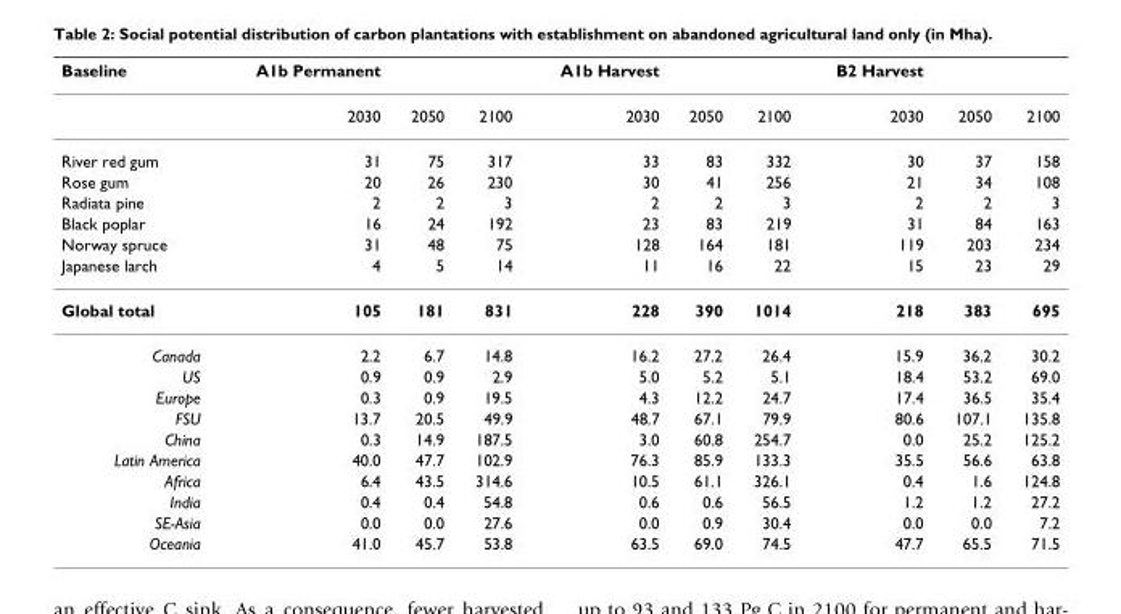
<table><thead><tr><td>Baseline</td><td>A1b Permanent</td><td></td><td></td><td>A1b Harvest</td><td></td><td></td><td>B2 Harvest</td><td></td><td></td></tr></thead><tbody><tr><td></td><td>2030</td><td>2050</td><td>2100</td><td>2030</td><td>2050</td><td>2100</td><td>2030</td><td>2050</td><td>2100</td></tr><tr><td>River red gum</td><td>31</td><td>75</td><td>317</td><td>33</td><td>83</td><td>332</td><td>30</td><td>37</td><td>158</td></tr><tr><td>Rose gum</td><td>20</td><td>26</td><td>230</td><td>30</td><td>41</td><td>256</td><td>21</td><td>34</td><td>108</td></tr><tr><td>Radiata pine</td><td>2</td><td>2</td><td>3</td><td>2</td><td>2</td><td>3</td><td>2</td><td>2</td><td>3</td></tr><tr><td>Black poplar</td><td>16</td><td>24</td><td>192</td><td>23</td><td>83</td><td>219</td><td>31</td><td>84</td><td>163</td></tr><tr><td>Norway spruce</td><td>31</td><td>48</td><td>75</td><td>128</td><td>164</td><td>181</td><td>119</td><td>203</td><td>234</td></tr><tr><td>Japanese larch</td><td>4</td><td>5</td><td>14</td><td>11</td><td>16</td><td>22</td><td>15</td><td>23</td><td>29</td></tr><tr><td>Global total</td><td>105</td><td>181</td><td>831</td><td>228</td><td>390</td><td>1014</td><td>218</td><td>383</td><td>695</td></tr><tr><td>Canada</td><td>2.2</td><td>6.7</td><td>14.8</td><td>16.2</td><td>27.2</td><td>26.4</td><td>15.9</td><td>36.2</td><td>30.2</td></tr><tr><td>US</td><td>0.9</td><td>0.9</td><td>2.9</td><td>5.0</td><td>5.2</td><td>5.1</td><td>18.4</td><td>53.2</td><td>69.0</td></tr><tr><td>Europe</td><td>0.3</td><td>0.9</td><td>19.5</td><td>4.3</td><td>12.2</td><td>24.7</td><td>17.4</td><td>36.5</td><td>35.4</td></tr><tr><td>FSU</td><td>13.7</td><td>20.5</td><td>49.9</td><td>48.7</td><td>67.1</td><td>79.9</td><td>80.6</td><td>107.1</td><td>135.8</td></tr><tr><td>China</td><td>0.3</td><td>14.9</td><td>187.5</td><td>3.0</td><td>60.8</td><td>254.7</td><td>0.0</td><td>25.2</td><td>125.2</td></tr><tr><td>Latin America</td><td>40.0</td><td>47.7</td><td>102.9</td><td>76.3</td><td>85.9</td><td>133.3</td><td>35.5</td><td>56.6</td><td>63.8</td></tr><tr><td>Africa</td><td>6.4</td><td>43.5</td><td>314.6</td><td>10.5</td><td>61.1</td><td>326.1</td><td>0.4</td><td>1.6</td><td>124.8</td></tr><tr><td>India</td><td>0.4</td><td>0.4</td><td>54.8</td><td>0.6</td><td>0.6</td><td>56.5</td><td>1.2</td><td>1.2</td><td>27.2</td></tr><tr><td>SE-Asia</td><td>0.0</td><td>0.0</td><td>27.6</td><td>0.0</td><td>0.9</td><td>30.4</td><td>0.0</td><td>0.0</td><td>7.2</td></tr><tr><td>Oceania</td><td>41.0</td><td>45.7</td><td>53.8</td><td>63.5</td><td>69.0</td><td>74.5</td><td>47.7</td><td>65.5</td><td>71.5</td></tr></tbody></table>